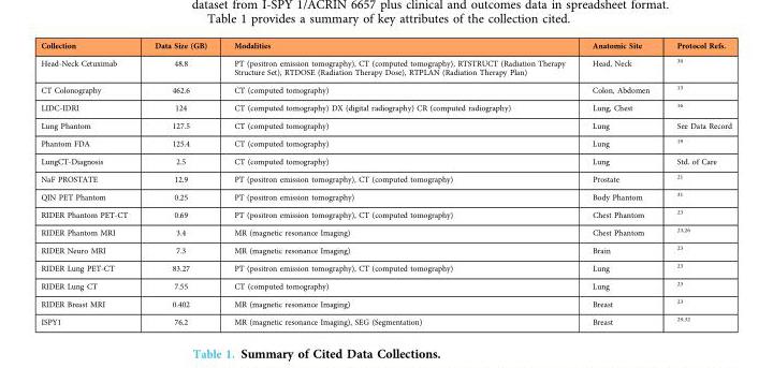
<table><thead><tr><td>Collection</td><td>Data Size (GB)</td><td>Modalities</td><td>Anatomic Site</td><td>Protocol Refs.</td></tr></thead><tbody><tr><td>Head-Neck Cetuximab</td><td>48.8</td><td>PT (positron emission tomography), CT (computed tomography), RTSTRUCT (Radiation Therapy Structure Set), RTDOSE (Radiation Therapy Dose), RTPLAN (Radiation Therapy Plan)</td><td>Head, Neck</td><td><sup>30</sup></td></tr><tr><td>CT Colonography</td><td>462.6</td><td>CT (computed tomography)</td><td>Colon, Abdomen</td><td><sup>13</sup></td></tr><tr><td>LIDC-IDRI</td><td>124</td><td>CT (computed tomography) DX (digital radiography) CR (computed radiography)</td><td>Lung, Chest</td><td><sup>16</sup></td></tr><tr><td>Lung Phantom</td><td>127.5</td><td>CT (computed tomography)</td><td>Lung</td><td>See Data Record</td></tr><tr><td>Phantom FDA</td><td>125.4</td><td>CT (computed tomography)</td><td>Lung</td><td><sup>19</sup></td></tr><tr><td>LungCT-Diagnosis</td><td>2.5</td><td>CT (computed tomography)</td><td>Lung</td><td>Std. of Care</td></tr><tr><td>NaF PROSTATE</td><td>12.9</td><td>PT (positron emission tomography), CT (computed tomography)</td><td>Prostate</td><td><sup>21</sup></td></tr><tr><td>QIN PET Phantom</td><td>0.25</td><td>PT (positron emission tomography)</td><td>Body Phantom</td><td><sup>31</sup></td></tr><tr><td>RIDER Phantom PET-CT</td><td>0.69</td><td>PT (positron emission tomography), CT (computed tomography)</td><td>Chest Phantom</td><td><sup>23</sup></td></tr><tr><td>RIDER Phantom MRI</td><td>3.4</td><td>MR (magnetic resonance Imaging)</td><td>Chest Phantom</td><td><sup>23,26</sup></td></tr><tr><td>RIDER Neuro MRI</td><td>7.3</td><td>MR (magnetic resonance Imaging)</td><td>Brain</td><td><sup>23</sup></td></tr><tr><td>RIDER Lung PET-CT</td><td>83.27</td><td>PT (positron emission tomography), CT (computed tomography)</td><td>Lung</td><td><sup>23</sup></td></tr><tr><td>RIDER Lung CT</td><td>7.55</td><td>CT (computed tomography)</td><td>Lung</td><td><sup>23</sup></td></tr><tr><td>RIDER Breast MRI</td><td>0.402</td><td>MR (magnetic resonance Imaging)</td><td>Breast</td><td><sup>23</sup></td></tr><tr><td>ISPY1</td><td>76.2</td><td>MR (magnetic resonance Imaging), SEG (Segmentation)</td><td>Breast</td><td><sup>29,32</sup></td></tr></tbody></table>